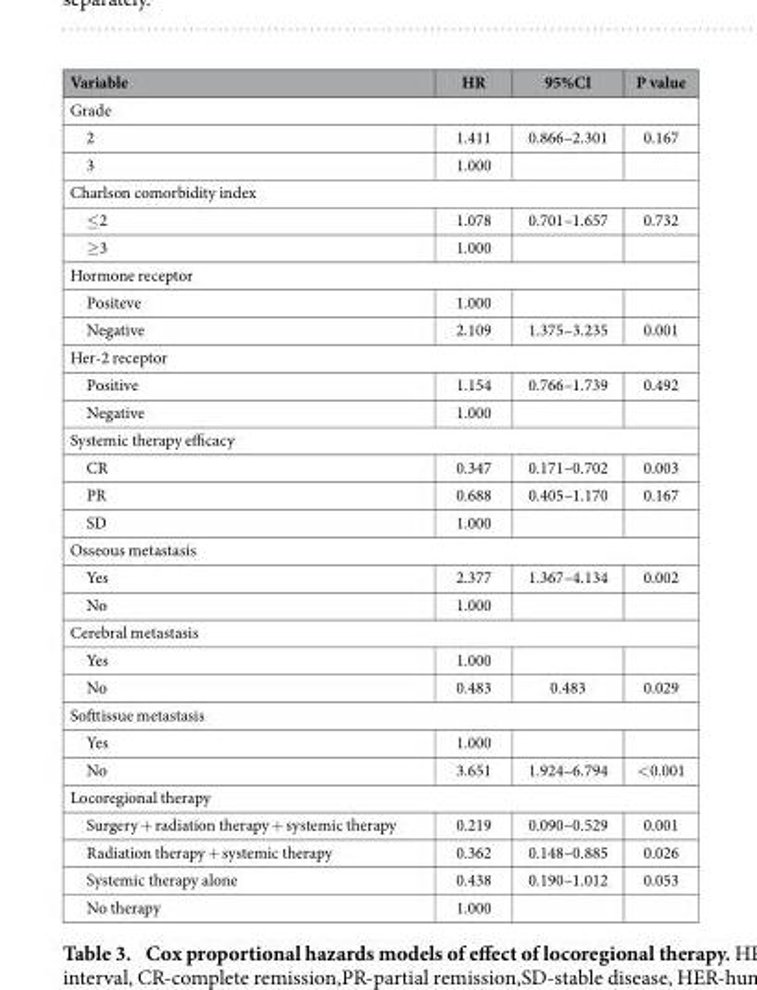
<table><thead><tr><td>Variable</td><td>HR</td><td>95%CI</td><td>P value</td></tr></thead><tbody><tr><td colspan="4">Grade</td></tr><tr><td>2</td><td>1.411</td><td>0.866–2.301</td><td>0.167</td></tr><tr><td>3</td><td>1.000</td><td></td><td></td></tr><tr><td colspan="4">Charlson comorbidity index</td></tr><tr><td>≤ 2</td><td>1.078</td><td>0.701–1.657</td><td>0.732</td></tr><tr><td>≥ 3</td><td>1.000</td><td></td><td></td></tr><tr><td colspan="4">Hormone receptor</td></tr><tr><td>Positeve</td><td>1.000</td><td></td><td></td></tr><tr><td>Negative</td><td>2.109</td><td>1.375–3.235</td><td>0.001</td></tr><tr><td colspan="4">Her-2 receptor</td></tr><tr><td>Positive</td><td>1.154</td><td>0.766–1.739</td><td>0.492</td></tr><tr><td>Negative</td><td>1.000</td><td></td><td></td></tr><tr><td colspan="4">Systemic therapy efficacy</td></tr><tr><td>CR</td><td>0.347</td><td>0.171–0.702</td><td>0.003</td></tr><tr><td>PR</td><td>0.688</td><td>0.405–1.170</td><td>0.167</td></tr><tr><td>SD</td><td>1.000</td><td></td><td></td></tr><tr><td colspan="4">Osseous metastasis</td></tr><tr><td>Yes</td><td>2.377</td><td>1.367–4.134</td><td>0.002</td></tr><tr><td>No</td><td>1.000</td><td></td><td></td></tr><tr><td colspan="4">Cerebral metastasis</td></tr><tr><td>Yes</td><td>1.000</td><td></td><td></td></tr><tr><td>No</td><td>0.483</td><td>0.483</td><td>0.029</td></tr><tr><td colspan="4">Softtissue metastasis</td></tr><tr><td>Yes</td><td>1.000</td><td></td><td></td></tr><tr><td>No</td><td>3.651</td><td>1.924–6.794</td><td>&lt; 0.001</td></tr><tr><td colspan="4">Locoregional therapy</td></tr><tr><td>Surgery + radiation therapy + systemic therapy</td><td>0.219</td><td>0.090–0.529</td><td>0.001</td></tr><tr><td>Radiation therapy + systemic therapy</td><td>0.362</td><td>0.148–0.885</td><td>0.026</td></tr><tr><td>Systemic therapy alone</td><td>0.438</td><td>0.190–1.012</td><td>0.053</td></tr><tr><td>No therapy</td><td>1.000</td><td></td><td></td></tr></tbody></table>